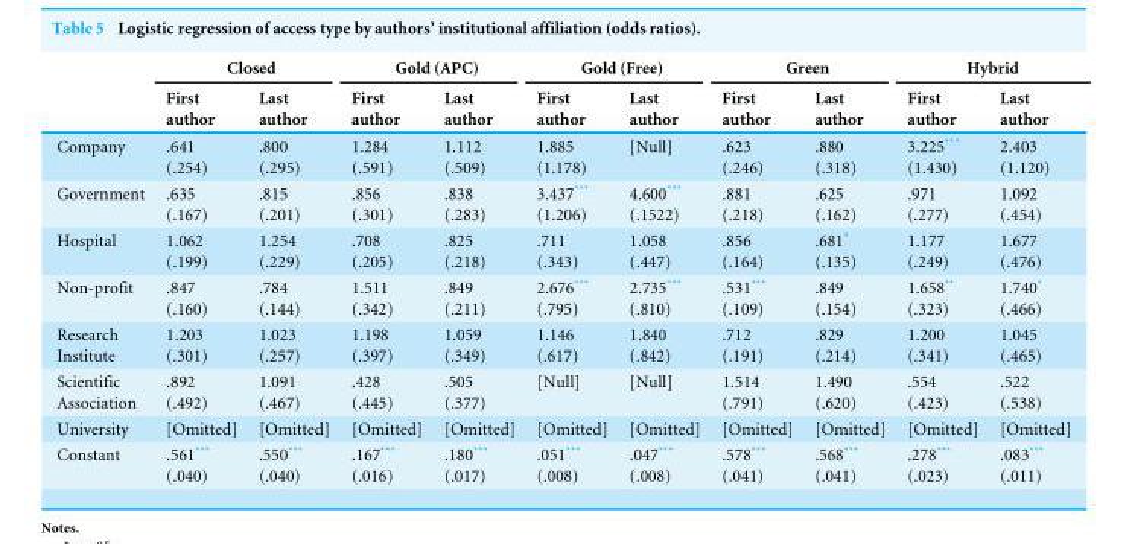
<table><thead><tr><td rowspan="2"></td><td colspan="2">Closed</td><td colspan="2">Gold (APC)</td><td colspan="2">Gold (Free)</td><td colspan="2">Green</td><td colspan="2">Hybrid</td></tr><tr><td>First author</td><td>Last author</td><td>First author</td><td>Last author</td><td>First author</td><td>Last author</td><td>First author</td><td>Last author</td><td>First author</td><td>Last author</td></tr></thead><tbody><tr><td>Company</td><td>.641 (.254)</td><td>.800 (.295)</td><td>1.284 (.591)</td><td>1.112 (.509)</td><td>1.885 (1.178)</td><td>[Null]</td><td>.623 (.246)</td><td>.880 (.318)</td><td>3.225*** (1.430)</td><td>2.403 (1.120)</td></tr><tr><td>Government</td><td>.635 (.167)</td><td>.815 (.201)</td><td>.856 (.301)</td><td>.838 (.283)</td><td>3.437*** (1.206)</td><td>4.600*** (.1522)</td><td>.881 (.218)</td><td>.625 (.162)</td><td>.971 (.277)</td><td>1.092 (.454)</td></tr><tr><td>Hospital</td><td>1.062 (.199)</td><td>1.254 (.229)</td><td>.708 (.205)</td><td>.825 (.218)</td><td>.711 (.343)</td><td>1.058 (.447)</td><td>.856 (.164)</td><td>.681* (.135)</td><td>1.177 (.249)</td><td>1.677 (.476)</td></tr><tr><td>Non-profit</td><td>.847 (.160)</td><td>.784 (.144)</td><td>1.511 (.342)</td><td>.849 (.211)</td><td>2.676*** (.795)</td><td>2.735*** (.810)</td><td>.531*** (.109)</td><td>.849 (.154)</td><td>1.658** (.323)</td><td>1.740* (.466)</td></tr><tr><td>Research Institute</td><td>1.203 (.301)</td><td>1.023 (.257)</td><td>1.198 (.397)</td><td>1.059 (.349)</td><td>1.146 (.617)</td><td>1.840 (.842)</td><td>.712 (.191)</td><td>.829 (.214)</td><td>1.200 (.341)</td><td>1.045 (.465)</td></tr><tr><td>Scientific Association</td><td>.892 (.492)</td><td>1.091 (.467)</td><td>.428 (.445)</td><td>.505 (.377)</td><td>[Null]</td><td>[Null]</td><td>1.514 (.791)</td><td>1.490 (.620)</td><td>.554 (.423)</td><td>.522 (.538)</td></tr><tr><td>University</td><td>[Omitted]</td><td>[Omitted]</td><td>[Omitted]</td><td>[Omitted]</td><td>[Omitted]</td><td>[Omitted]</td><td>[Omitted]</td><td>[Omitted]</td><td>[Omitted]</td><td>[Omitted]</td></tr><tr><td>Constant</td><td>.561*** (.040)</td><td>.550*** (.040)</td><td>.167*** (.016)</td><td>.180*** (.017)</td><td>.051*** (.008)</td><td>.047*** (.008)</td><td>.578*** (.041)</td><td>.568*** (.041)</td><td>.278*** (.023)</td><td>.083*** (.011)</td></tr></tbody></table>